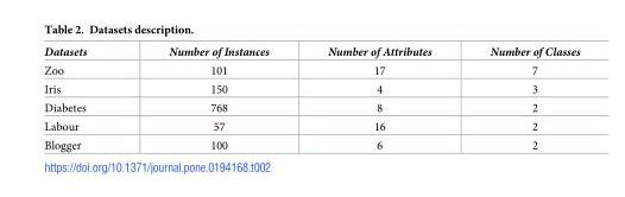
<table><thead><tr><td>Datasets</td><td>Number of Instances</td><td>Number of Attributes</td><td>Number of Classes</td></tr></thead><tbody><tr><td>Zoo</td><td>101</td><td>17</td><td>7</td></tr><tr><td>Iris</td><td>150</td><td>4</td><td>3</td></tr><tr><td>Diabetes</td><td>768</td><td>8</td><td>2</td></tr><tr><td>Labour</td><td>57</td><td>16</td><td>2</td></tr><tr><td>Blogger</td><td>100</td><td>6</td><td>2</td></tr></tbody></table>